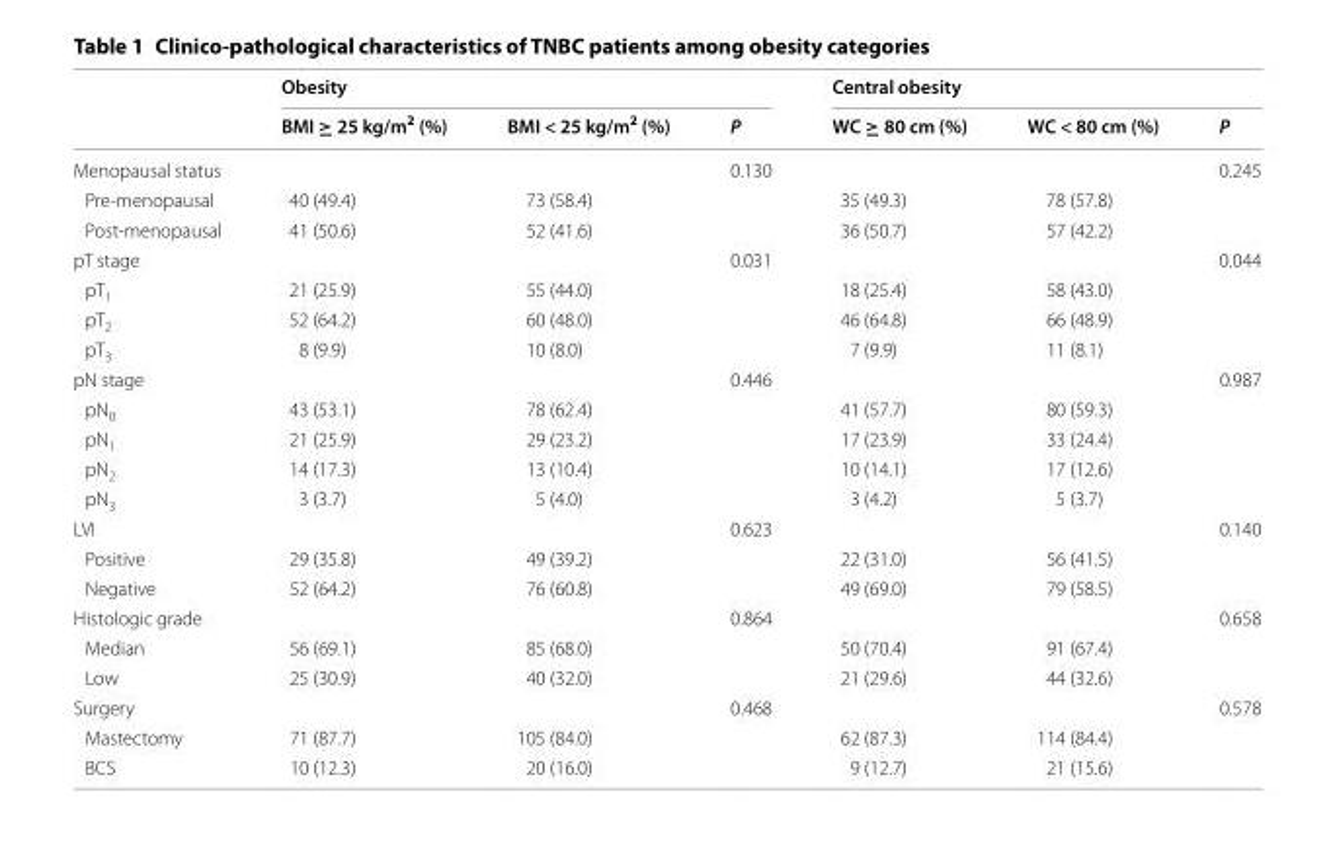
<table><thead><tr><td rowspan="2"></td><td colspan="3">Obesity</td><td colspan="3">Central obesity</td></tr><tr><td>BMI ≥ 25 kg/m<sup>2</sup> (%)</td><td>BMI &lt; 25 kg/m<sup>2</sup> (%)</td><td>P</td><td>WC ≥ 80 cm (%)</td><td>WC &lt; 80 cm (%)</td><td>P</td></tr></thead><tbody><tr><td>Menopausal status</td><td></td><td></td><td>0.130</td><td></td><td></td><td>0.245</td></tr><tr><td>Pre‑menopausal</td><td>40 (49.4)</td><td>73 (58.4)</td><td></td><td>35 (49.3)</td><td>78 (57.8)</td><td></td></tr><tr><td>Post‑menopausal</td><td>41 (50.6)</td><td>52 (41.6)</td><td></td><td>36 (50.7)</td><td>57 (42.2)</td><td></td></tr><tr><td>pT stage</td><td></td><td></td><td>0.031</td><td></td><td></td><td>0.044</td></tr><tr><td>pT<sub>1</sub></td><td>21 (25.9)</td><td>55 (44.0)</td><td></td><td>18 (25.4)</td><td>58 (43.0)</td><td></td></tr><tr><td>pT<sub>2</sub></td><td>52 (64.2)</td><td>60 (48.0)</td><td></td><td>46 (64.8)</td><td>66 (48.9)</td><td></td></tr><tr><td>pT<sub>3</sub></td><td>8 (9.9)</td><td>10 (8.0)</td><td></td><td>7 (9.9)</td><td>11 (8.1)</td><td></td></tr><tr><td>pN stage</td><td></td><td></td><td>0.446</td><td></td><td></td><td>0.987</td></tr><tr><td>pN<sub>0</sub></td><td>43 (53.1)</td><td>78 (62.4)</td><td></td><td>41 (57.7)</td><td>80 (59.3)</td><td></td></tr><tr><td>pN<sub>1</sub></td><td>21 (25.9)</td><td>29 (23.2)</td><td></td><td>17 (23.9)</td><td>33 (24.4)</td><td></td></tr><tr><td>pN<sub>2</sub></td><td>14 (17.3)</td><td>13 (10.4)</td><td></td><td>10 (14.1)</td><td>17 (12.6)</td><td></td></tr><tr><td>pN<sub>3</sub></td><td>3 (3.7)</td><td>5 (4.0)</td><td></td><td>3 (4.2)</td><td>5 (3.7)</td><td></td></tr><tr><td>LVI</td><td></td><td></td><td>0.623</td><td></td><td></td><td>0.140</td></tr><tr><td>Positive</td><td>29 (35.8)</td><td>49 (39.2)</td><td></td><td>22 (31.0)</td><td>56 (41.5)</td><td></td></tr><tr><td>Negative</td><td>52 (64.2)</td><td>76 (60.8)</td><td></td><td>49 (69.0)</td><td>79 (58.5)</td><td></td></tr><tr><td>Histologic grade</td><td></td><td></td><td>0.864</td><td></td><td></td><td>0.658</td></tr><tr><td>Median</td><td>56 (69.1)</td><td>85 (68.0)</td><td></td><td>50 (70.4)</td><td>91 (67.4)</td><td></td></tr><tr><td>Low</td><td>25 (30.9)</td><td>40 (32.0)</td><td></td><td>21 (29.6)</td><td>44 (32.6)</td><td></td></tr><tr><td>Surgery</td><td></td><td></td><td>0.468</td><td></td><td></td><td>0.578</td></tr><tr><td>Mastectomy</td><td>71 (87.7)</td><td>105 (84.0)</td><td></td><td>62 (87.3)</td><td>114 (84.4)</td><td></td></tr><tr><td>BCS</td><td>10 (12.3)</td><td>20 (16.0)</td><td></td><td>9 (12.7)</td><td>21 (15.6)</td><td></td></tr></tbody></table>